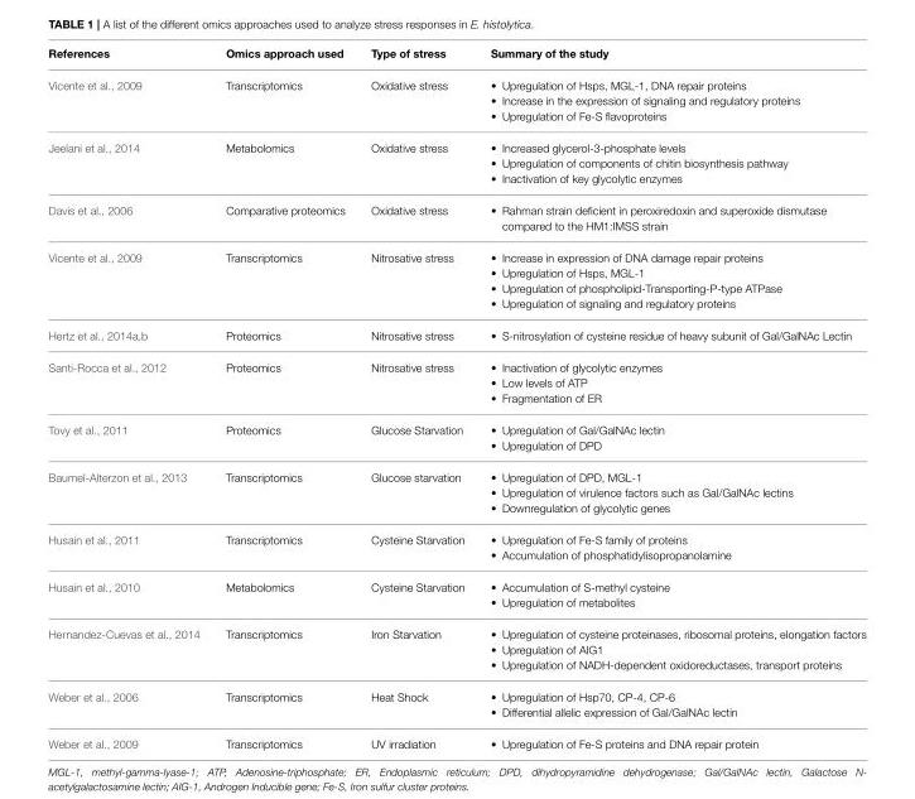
<table><thead><tr><td>References</td><td>Omics approach used</td><td>Type of stress</td><td>Summary of the study</td></tr></thead><tbody><tr><td>Vicente et al., 2009</td><td>Transcriptomics</td><td>Oxidative stress</td><td>• Upregulation of Hsps, MGL-1, DNA repair proteins • Increase in the expression of signaling and regulatory proteins • Upregulation of Fe-S flavoproteins</td></tr><tr><td>Jeelani et al., 2014</td><td>Metabolomics</td><td>Oxidative stress</td><td>• Increased glycerol-3-phosphate levels • Upregulation of components of chitin biosynthesis pathway • Inactivation of key glycolytic enzymes</td></tr><tr><td>Davis et al., 2006</td><td>Comparative proteomics</td><td>Oxidative stress</td><td>• Rahman strain deficient in peroxiredoxin and superoxide dismutase compared to the HM1:IMSS strain</td></tr><tr><td>Vicente et al., 2009</td><td>Transcriptomics</td><td>Nitrosative stress</td><td>• Increase in expression of DNA damage repair proteins • Upregulation of Hsps, MGL-1 • Upregulation of phospholipid-Transporting-P-type ATPase • Upregulation of signaling and regulatory proteins</td></tr><tr><td>Hertz et al., 2014a,b</td><td>Proteomics</td><td>Nitrosative stress</td><td>• S-nitrosylation of cysteine residue of heavy subunit of Gal/GalNAc Lectin</td></tr><tr><td>Santi-Rocca et al., 2012</td><td>Proteomics</td><td>Nitrosative stress</td><td>• Inactivation of glycolytic enzymes • Low levels of ATP • Fragmentation of ER</td></tr><tr><td>Tovy et al., 2011</td><td>Proteomics</td><td>Glucose Starvation</td><td>• Upregulation of Gal/GalNAc lectin • Upregulation of DPD</td></tr><tr><td>Baumel-Alterzon et al., 2013</td><td>Transcriptomics</td><td>Glucose starvation</td><td>• Upregulation of DPD, MGL-1 • Upregulation of virulence factors such as Gal/GalNAc lectins • Downregulation of glycolytic genes</td></tr><tr><td>Husain et al., 2011</td><td>Transcriptomics</td><td>Cysteine Starvation</td><td>• Upregulation of Fe-S family of proteins • Accumulation of phosphatidylisopropanolamine</td></tr><tr><td>Husain et al., 2010</td><td>Metabolomics</td><td>Cysteine Starvation</td><td>• Accumulation of S-methyl cysteine • Upregulation of metabolites</td></tr><tr><td>Hernandez-Cuevas et al., 2014</td><td>Transcriptomics</td><td>Iron Starvation</td><td>• Upregulation of cysteine proteinases, ribosomal proteins, elongation factors • Upregulation of AIG1 • Upregulation of NADH-dependent oxidoreductases, transport proteins</td></tr><tr><td>Weber et al., 2006</td><td>Transcriptomics</td><td>Heat Shock</td><td>• Upregulation of Hsp70, CP-4, CP-6 • Differential allelic expression of Gal/GalNAc lectin</td></tr><tr><td>Weber et al., 2009</td><td>Transcriptomics</td><td>UV irradiation</td><td>• Upregulation of Fe-S proteins and DNA repair protein</td></tr></tbody></table>